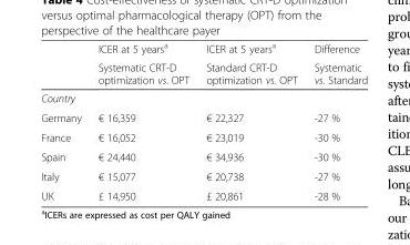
<table><thead><tr><td rowspan="2"></td><td rowspan="2">ICER at 5 years<sup>a</sup> Systematic CRT-D optimization vs. OPT</td><td rowspan="2">ICER at 5 years<sup>a</sup> Standard CRT-D optimization vs. OPT</td><td rowspan="2">Difference Systematic vs. Standard</td></tr><tr></tr></thead><tbody><tr><td colspan="4">Country</td></tr><tr><td>Germany</td><td>€ 16,359</td><td>€ 22,327</td><td>-27 %</td></tr><tr><td>France</td><td>€ 16,052</td><td>€ 23,019</td><td>-30 %</td></tr><tr><td>Spain</td><td>€ 24,440</td><td>€ 34,936</td><td>-30 %</td></tr><tr><td>Italy</td><td>€ 15,077</td><td>€ 20,738</td><td>-27 %</td></tr><tr><td>UK</td><td>£ 14,950</td><td>£ 20,861</td><td>-28 %</td></tr></tbody></table>